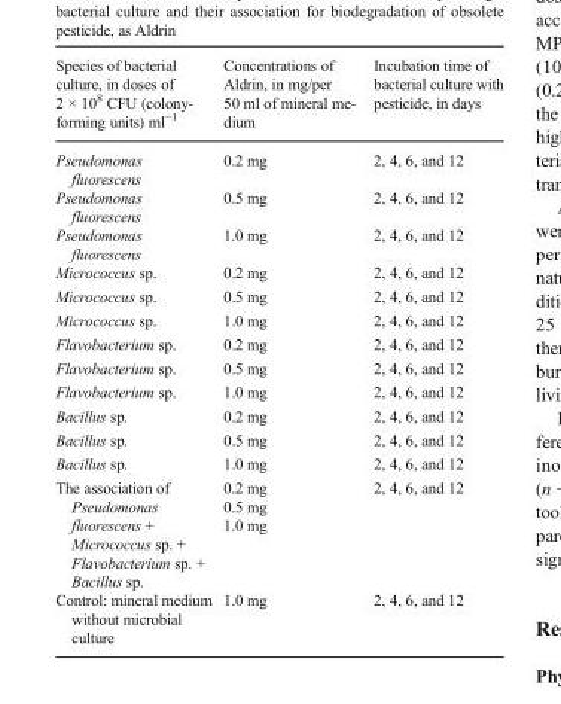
<table><thead><tr><td>Species of bacterial culture, in doses of 2 × 10<sup>8</sup> CFU (colony- forming units) ml<sup>−1</sup></td><td>Concentrations of Aldrin, in mg/per 50 ml of mineral me- dium</td><td>Incubation time of bacterial culture with pesticide, in days</td></tr></thead><tbody><tr><td>Pseudomonas fluorescens</td><td>0.2 mg</td><td>2, 4, 6, and 12</td></tr><tr><td>Pseudomonas fluorescens</td><td>0.5 mg</td><td>2, 4, 6, and 12</td></tr><tr><td>Pseudomonas fluorescens</td><td>1.0 mg</td><td>2, 4, 6, and 12</td></tr><tr><td>Micrococcus sp.</td><td>0.2 mg</td><td>2, 4, 6, and 12</td></tr><tr><td>Micrococcus sp.</td><td>0.5 mg</td><td>2, 4, 6, and 12</td></tr><tr><td>Micrococcus sp.</td><td>1.0 mg</td><td>2, 4, 6, and 12</td></tr><tr><td>Flavobacterium sp.</td><td>0.2 mg</td><td>2, 4, 6, and 12</td></tr><tr><td>Flavobacterium sp.</td><td>0.5 mg</td><td>2, 4, 6, and 12</td></tr><tr><td>Flavobacterium sp.</td><td>1.0 mg</td><td>2, 4, 6, and 12</td></tr><tr><td>Bacillus sp.</td><td>0.2 mg</td><td>2, 4, 6, and 12</td></tr><tr><td>Bacillus sp.</td><td>0.5 mg</td><td>2, 4, 6, and 12</td></tr><tr><td>Bacillus sp.</td><td>1.0 mg</td><td>2, 4, 6, and 12</td></tr><tr><td>The association of Pseudomonas fluorescens + Micrococcus sp. + Flavobacterium sp. + Bacillus sp.</td><td>0.2 mg 0.5 mg 1.0 mg</td><td>2, 4, 6, and 12</td></tr><tr><td>Control: mineral medium without microbial culture</td><td>1.0 mg</td><td>2, 4, 6, and 12</td></tr></tbody></table>